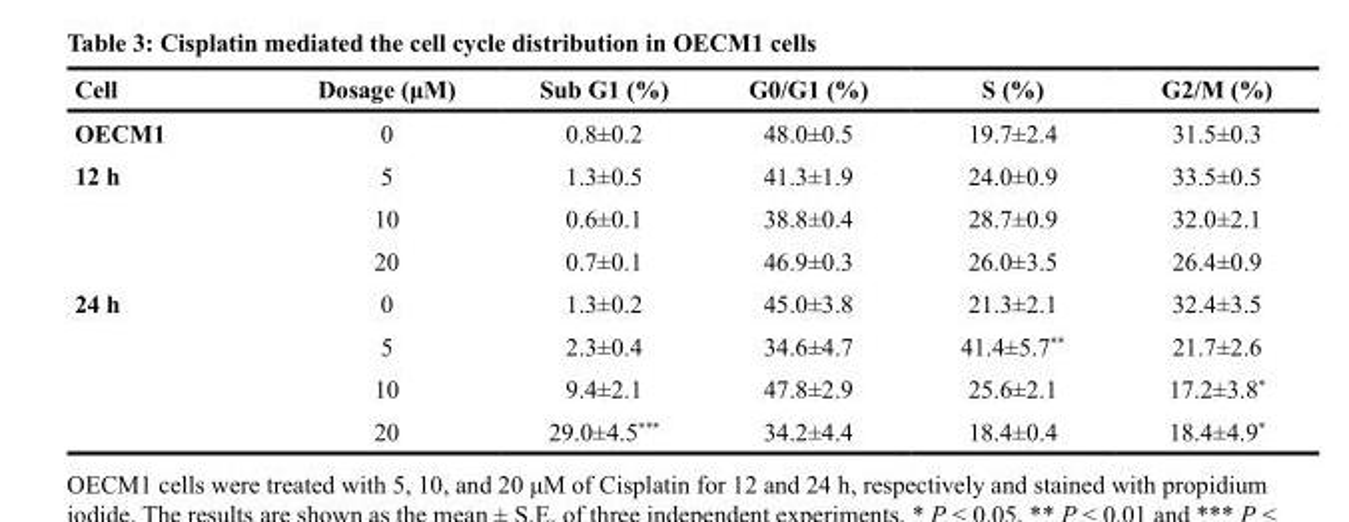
<table><thead><tr><td>Cell</td><td>Dosage (μM)</td><td>Sub G1 (%)</td><td>G0/G1 (%)</td><td>S (%)</td><td>G2/M (%)</td></tr></thead><tbody><tr><td>OECM1</td><td>0</td><td>0.8±0.2</td><td>48.0±0.5</td><td>19.7±2.4</td><td>31.5±0.3</td></tr><tr><td rowspan="3">12 h</td><td>5</td><td>1.3±0.5</td><td>41.3±1.9</td><td>24.0±0.9</td><td>33.5±0.5</td></tr><tr><td>10</td><td>0.6±0.1</td><td>38.8±0.4</td><td>28.7±0.9</td><td>32.0±2.1</td></tr><tr><td>20</td><td>0.7±0.1</td><td>46.9±0.3</td><td>26.0±3.5</td><td>26.4±0.9</td></tr><tr><td rowspan="4">24 h</td><td>0</td><td>1.3±0.2</td><td>45.0±3.8</td><td>21.3±2.1</td><td>32.4±3.5</td></tr><tr><td>5</td><td>2.3±0.4</td><td>34.6±4.7</td><td>41.4±5.7**</td><td>21.7±2.6</td></tr><tr><td>10</td><td>9.4±2.1</td><td>47.8±2.9</td><td>25.6±2.1</td><td>17.2±3.8*</td></tr><tr><td>20</td><td>29.0±4.5***</td><td>34.2±4.4</td><td>18.4±0.4</td><td>18.4±4.9*</td></tr></tbody></table>